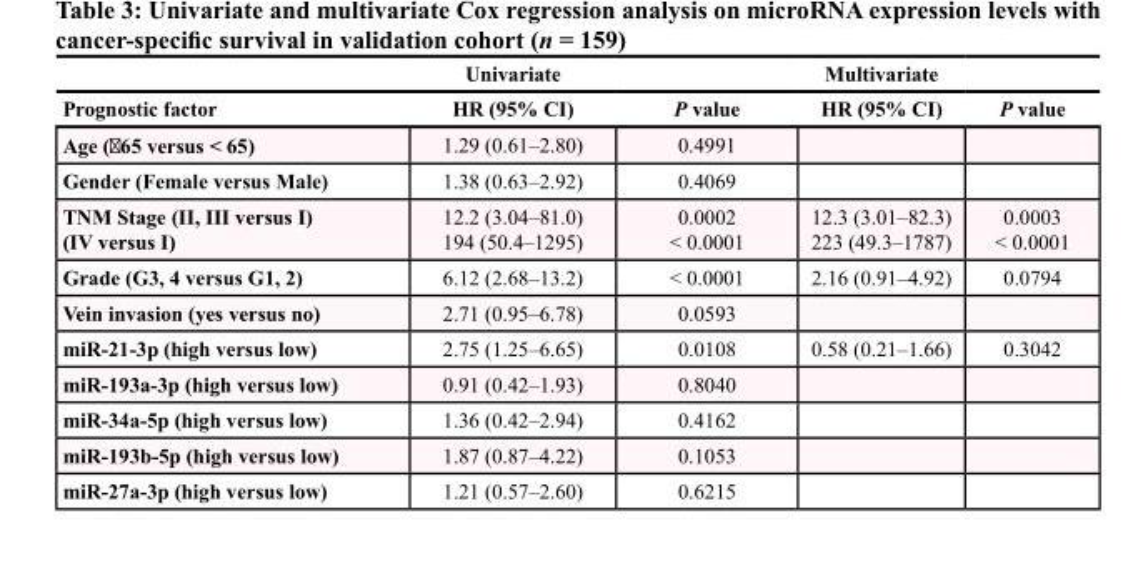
<table><thead><tr><td rowspan="2">Prognostic factor</td><td rowspan="2">Univariate HR (95% CI)</td><td rowspan="2">P value</td><td rowspan="2">Multivariate HR (95% CI)</td><td rowspan="2">P value</td></tr><tr></tr></thead><tbody><tr><td>Age (≧65 versus &lt; 65)</td><td>1.29 (0.61–2.80)</td><td>0.4991</td><td></td><td></td></tr><tr><td>Gender (Female versus Male)</td><td>1.38 (0.63–2.92)</td><td>0.4069</td><td></td><td></td></tr><tr><td>TNM Stage (II, III versus I) (IV versus I)</td><td>12.2 (3.04–81.0) 194 (50.4–1295)</td><td>0.0002 &lt; 0.0001</td><td>12.3 (3.01–82.3) 223 (49.3–1787)</td><td>0.0003 &lt; 0.0001</td></tr><tr><td>Grade (G3, 4 versus G1, 2)</td><td>6.12 (2.68–13.2)</td><td>&lt; 0.0001</td><td>2.16 (0.91–4.92)</td><td>0.0794</td></tr><tr><td>Vein invasion (yes versus no)</td><td>2.71 (0.95–6.78)</td><td>0.0593</td><td></td><td></td></tr><tr><td>miR-21-3p (high versus low)</td><td>2.75 (1.25–6.65)</td><td>0.0108</td><td>0.58 (0.21–1.66)</td><td>0.3042</td></tr><tr><td>miR-193a-3p (high versus low)</td><td>0.91 (0.42–1.93)</td><td>0.8040</td><td></td><td></td></tr><tr><td>miR-34a-5p (high versus low)</td><td>1.36 (0.42–2.94)</td><td>0.4162</td><td></td><td></td></tr><tr><td>miR-193b-5p (high versus low)</td><td>1.87 (0.87–4.22)</td><td>0.1053</td><td></td><td></td></tr><tr><td>miR-27a-3p (high versus low)</td><td>1.21 (0.57–2.60)</td><td>0.6215</td><td></td><td></td></tr></tbody></table>